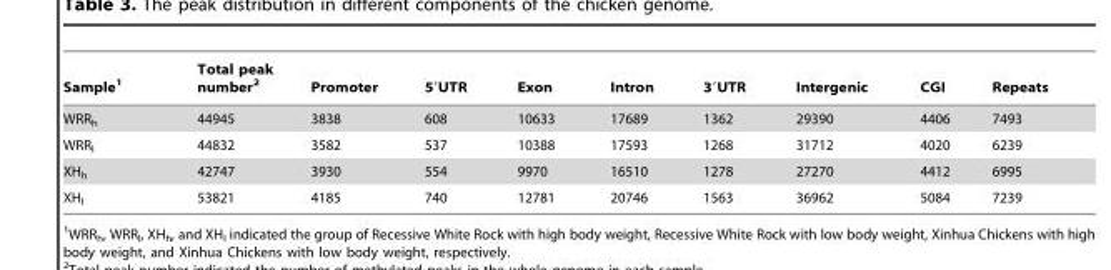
<table><thead><tr><td>Sample<sup>1</sup></td><td>Total peak number<sup>2</sup></td><td>Promoter</td><td>5′UTR</td><td>Exon</td><td>Intron</td><td>3′UTR</td><td>Intergenic</td><td>CGI</td><td>Repeats</td></tr></thead><tbody><tr><td>WRR<sub>h</sub></td><td>44945</td><td>3838</td><td>608</td><td>10633</td><td>17689</td><td>1362</td><td>29390</td><td>4406</td><td>7493</td></tr><tr><td>WRR<sub>l</sub></td><td>44832</td><td>3582</td><td>537</td><td>10388</td><td>17593</td><td>1268</td><td>31712</td><td>4020</td><td>6239</td></tr><tr><td>XH<sub>h</sub></td><td>42747</td><td>3930</td><td>554</td><td>9970</td><td>16510</td><td>1278</td><td>27270</td><td>4412</td><td>6995</td></tr><tr><td>XH<sub>l</sub></td><td>53821</td><td>4185</td><td>740</td><td>12781</td><td>20746</td><td>1563</td><td>36962</td><td>5084</td><td>7239</td></tr></tbody></table>